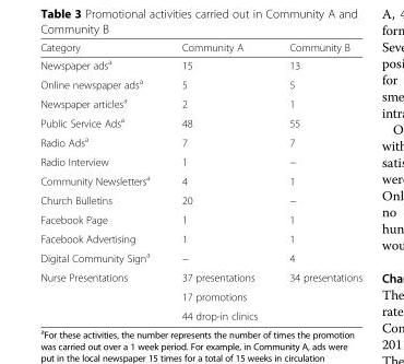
<table><thead><tr><td>Category</td><td>Community A</td><td>Community B</td></tr></thead><tbody><tr><td>Newspaper ads<sup>a</sup></td><td>15</td><td>13</td></tr><tr><td>Online newspaper ads<sup>a</sup></td><td>5</td><td>5</td></tr><tr><td>Newspaper articles<sup>a</sup></td><td>2</td><td>1</td></tr><tr><td>Public Service Ads<sup>a</sup></td><td>48</td><td>55</td></tr><tr><td>Radio Ads<sup>a</sup></td><td>7</td><td>7</td></tr><tr><td>Radio Interview</td><td>1</td><td>−</td></tr><tr><td>Community Newsletters<sup>a</sup></td><td>4</td><td>1</td></tr><tr><td>Church Bulletins</td><td>20</td><td>−</td></tr><tr><td>Facebook Page</td><td>1</td><td>1</td></tr><tr><td>Facebook Advertising</td><td>1</td><td>1</td></tr><tr><td>Digital Community Sign<sup>a</sup></td><td>−</td><td>4</td></tr><tr><td rowspan="3">Nurse Presentations</td><td>37 presentations</td><td rowspan="3">34 presentations</td></tr><tr><td>17 promotions</td></tr><tr><td>44 drop-in clinics</td></tr></tbody></table>